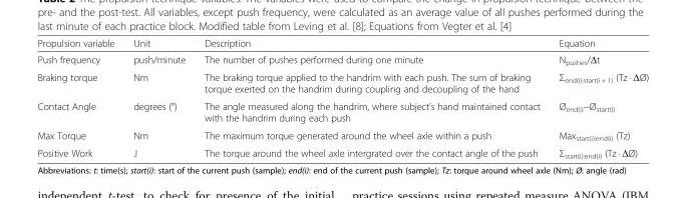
<table><thead><tr><td>Propulsion variable</td><td>Unit</td><td>Description</td><td>Equation</td></tr></thead><tbody><tr><td>Push frequency</td><td>push/minute</td><td>The number of pushes performed during one minute</td><td>N<sub>pushes</sub>/Δt</td></tr><tr><td>Braking torque</td><td>Nm</td><td>The braking torque applied to the handrim with each push. The sum of braking torque exerted on the handrim during coupling and decoupling of the hand</td><td>Σ<sub>end(i):start(i + 1)</sub> (Tz · ΔØ)</td></tr><tr><td>Contact Angle</td><td>degrees (°)</td><td>The angle measured along the handrim, where subject’s hand maintained contact with the handrim during each push</td><td>Ø<sub>end(i)</sub>−Ø<sub>start(i)</sub></td></tr><tr><td>Max Torque</td><td>Nm</td><td>The maximum torque generated around the wheel axle within a push</td><td>Max<sub>start(i):end(i)</sub> (Tz)</td></tr><tr><td>Positive Work</td><td>J</td><td>The torque around the wheel axle intergrated over the contact angle of the push</td><td>Σ<sub>start(i):end(i)</sub> (Tz · ΔØ)</td></tr></tbody></table>